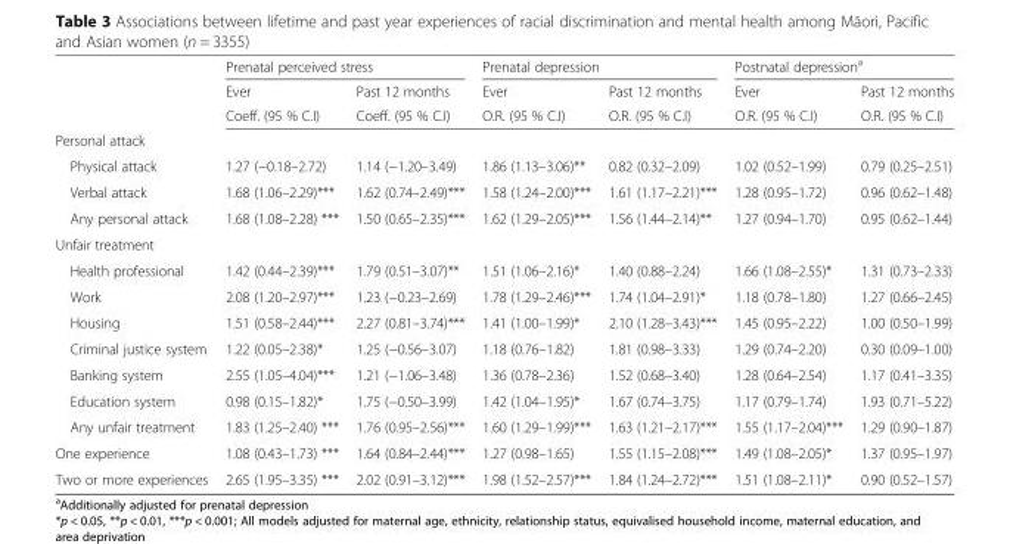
<table><thead><tr><td rowspan="3"></td><td colspan="2">Prenatal perceived stress</td><td colspan="2">Prenatal depression</td><td colspan="2">Postnatal depression<sup>a</sup></td></tr><tr><td rowspan="2">Ever Coeff. (95 % C.I)</td><td rowspan="2">Past 12 months Coeff. (95 % C.I)</td><td rowspan="2">Ever O.R. (95 % C.I)</td><td rowspan="2">Past 12 months O.R. (95 % C.I)</td><td rowspan="2">Ever O.R. (95 % C.I)</td><td rowspan="2">Past 12 months O.R. (95 % C.I)</td></tr><tr></tr></thead><tbody><tr><td colspan="7">Personal attack</td></tr><tr><td>Physical attack</td><td>1.27 (−0.18–2.72)</td><td>1.14 (−1.20–3.49)</td><td>1.86 (1.13–3.06)**</td><td>0.82 (0.32–2.09)</td><td>1.02 (0.52–1.99)</td><td>0.79 (0.25–2.51)</td></tr><tr><td>Verbal attack</td><td>1.68 (1.06–2.29)***</td><td>1.62 (0.74–2.49)***</td><td>1.58 (1.24–2.00)***</td><td>1.61 (1.17–2.21)***</td><td>1.28 (0.95–1.72)</td><td>0.96 (0.62–1.48)</td></tr><tr><td>Any personal attack</td><td>1.68 (1.08–2.28) ***</td><td>1.50 (0.65–2.35)***</td><td>1.62 (1.29–2.05)***</td><td>1.56 (1.44–2.14)**</td><td>1.27 (0.94–1.70)</td><td>0.95 (0.62–1.44)</td></tr><tr><td colspan="7">Unfair treatment</td></tr><tr><td>Health professional</td><td>1.42 (0.44–2.39)***</td><td>1.79 (0.51–3.07)**</td><td>1.51 (1.06–2.16)*</td><td>1.40 (0.88–2.24)</td><td>1.66 (1.08–2.55)*</td><td>1.31 (0.73–2.33)</td></tr><tr><td>Work</td><td>2.08 (1.20–2.97)***</td><td>1.23 (−0.23–2.69)</td><td>1.78 (1.29–2.46)***</td><td>1.74 (1.04–2.91)*</td><td>1.18 (0.78–1.80)</td><td>1.27 (0.66–2.45)</td></tr><tr><td>Housing</td><td>1.51 (0.58–2.44)***</td><td>2.27 (0.81–3.74)***</td><td>1.41 (1.00–1.99)*</td><td>2.10 (1.28–3.43)***</td><td>1.45 (0.95–2.22)</td><td>1.00 (0.50–1.99)</td></tr><tr><td>Criminal justice system</td><td>1.22 (0.05–2.38)*</td><td>1.25 (−0.56–3.07)</td><td>1.18 (0.76–1.82)</td><td>1.81 (0.98–3.33)</td><td>1.29 (0.74–2.20)</td><td>0.30 (0.09–1.00)</td></tr><tr><td>Banking system</td><td>2.55 (1.05–4.04)***</td><td>1.21 (−1.06–3.48)</td><td>1.36 (0.78–2.36)</td><td>1.52 (0.68–3.40)</td><td>1.28 (0.64–2.54)</td><td>1.17 (0.41–3.35)</td></tr><tr><td>Education system</td><td>0.98 (0.15–1.82)*</td><td>1.75 (−0.50–3.99)</td><td>1.42 (1.04–1.95)*</td><td>1.67 (0.74–3.75)</td><td>1.17 (0.79–1.74)</td><td>1.93 (0.71–5.22)</td></tr><tr><td>Any unfair treatment</td><td>1.83 (1.25–2.40) ***</td><td>1.76 (0.95–2.56)***</td><td>1.60 (1.29–1.99)***</td><td>1.63 (1.21–2.17)***</td><td>1.55 (1.17–2.04)***</td><td>1.29 (0.90–1.87)</td></tr><tr><td>One experience</td><td>1.08 (0.43–1.73) ***</td><td>1.64 (0.84–2.44)***</td><td>1.27 (0.98–1.65)</td><td>1.55 (1.15–2.08)***</td><td>1.49 (1.08–2.05)*</td><td>1.37 (0.95–1.97)</td></tr><tr><td>Two or more experiences</td><td>2.65 (1.95–3.35) ***</td><td>2.02 (0.91–3.12)***</td><td>1.98 (1.52–2.57)***</td><td>1.84 (1.24–2.72)***</td><td>1.51 (1.08–2.11)*</td><td>0.90 (0.52–1.57)</td></tr></tbody></table>